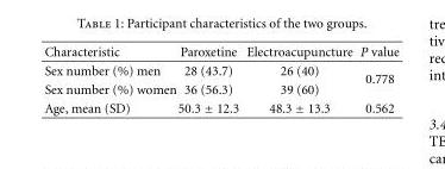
<table><thead><tr><td>Characteristic</td><td>Paroxetine</td><td>Electroacupuncture</td><td>P value</td></tr></thead><tbody><tr><td>Sex number (%) men</td><td>28 (43.7)</td><td>26 (40)</td><td rowspan="2">0.778</td></tr><tr><td>Sex number (%) women</td><td>36 (56.3)</td><td>39 (60)</td></tr><tr><td>Age, mean (SD)</td><td>50.3 ± 12.3</td><td>48.3 ± 13.3</td><td>0.562</td></tr></tbody></table>